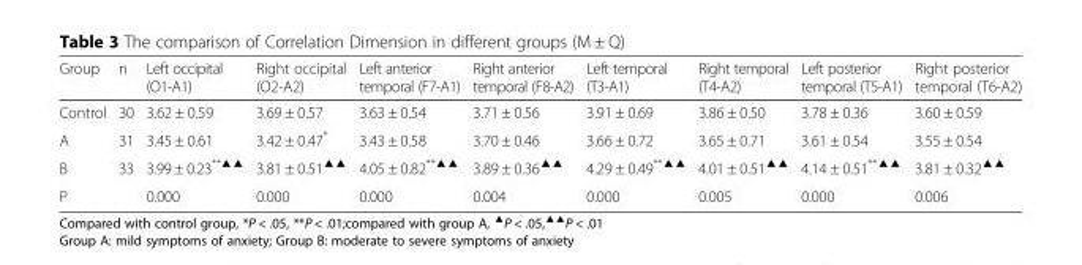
<table><thead><tr><td>Group</td><td>n</td><td>Left occipital (O1-A1)</td><td>Right occipital (O2-A2)</td><td>Left anterior temporal (F7-A1)</td><td>Right anterior temporal (F8-A2)</td><td>Left temporal (T3-A1)</td><td>Right temporal (T4-A2)</td><td>Left posterior temporal (T5-A1)</td><td>Right posterior temporal (T6-A2)</td></tr></thead><tbody><tr><td>Control</td><td>30</td><td>3.62 ± 0.59</td><td>3.69 ± 0.57</td><td>3.63 ± 0.54</td><td>3.71 ± 0.56</td><td>3.91 ± 0.69</td><td>3.86 ± 0.50</td><td>3.78 ± 0.36</td><td>3.60 ± 0.59</td></tr><tr><td>A</td><td>31</td><td>3.45 ± 0.61</td><td>3.42 ± 0.47*</td><td>3.43 ± 0.58</td><td>3.70 ± 0.46</td><td>3.66 ± 0.72</td><td>3.65 ± 0.71</td><td>3.61 ± 0.54</td><td>3.55 ± 0.54</td></tr><tr><td>B</td><td>33</td><td>3.99 ± 0.23<sup>**▲▲</sup></td><td>3.81 ± 0.51<sup>▲▲</sup></td><td>4.05 ± 0.82<sup>**▲▲</sup></td><td>3.89 ± 0.36<sup>▲▲</sup></td><td>4.29 ± 0.49<sup>**▲▲</sup></td><td>4.01 ± 0.51<sup>▲▲</sup></td><td>4.14 ± 0.51<sup>**▲▲</sup></td><td>3.81 ± 0.32<sup>▲▲</sup></td></tr><tr><td>P</td><td></td><td>0.000</td><td>0.000</td><td>0.000</td><td>0.004</td><td>0.000</td><td>0.005</td><td>0.000</td><td>0.006</td></tr></tbody></table>